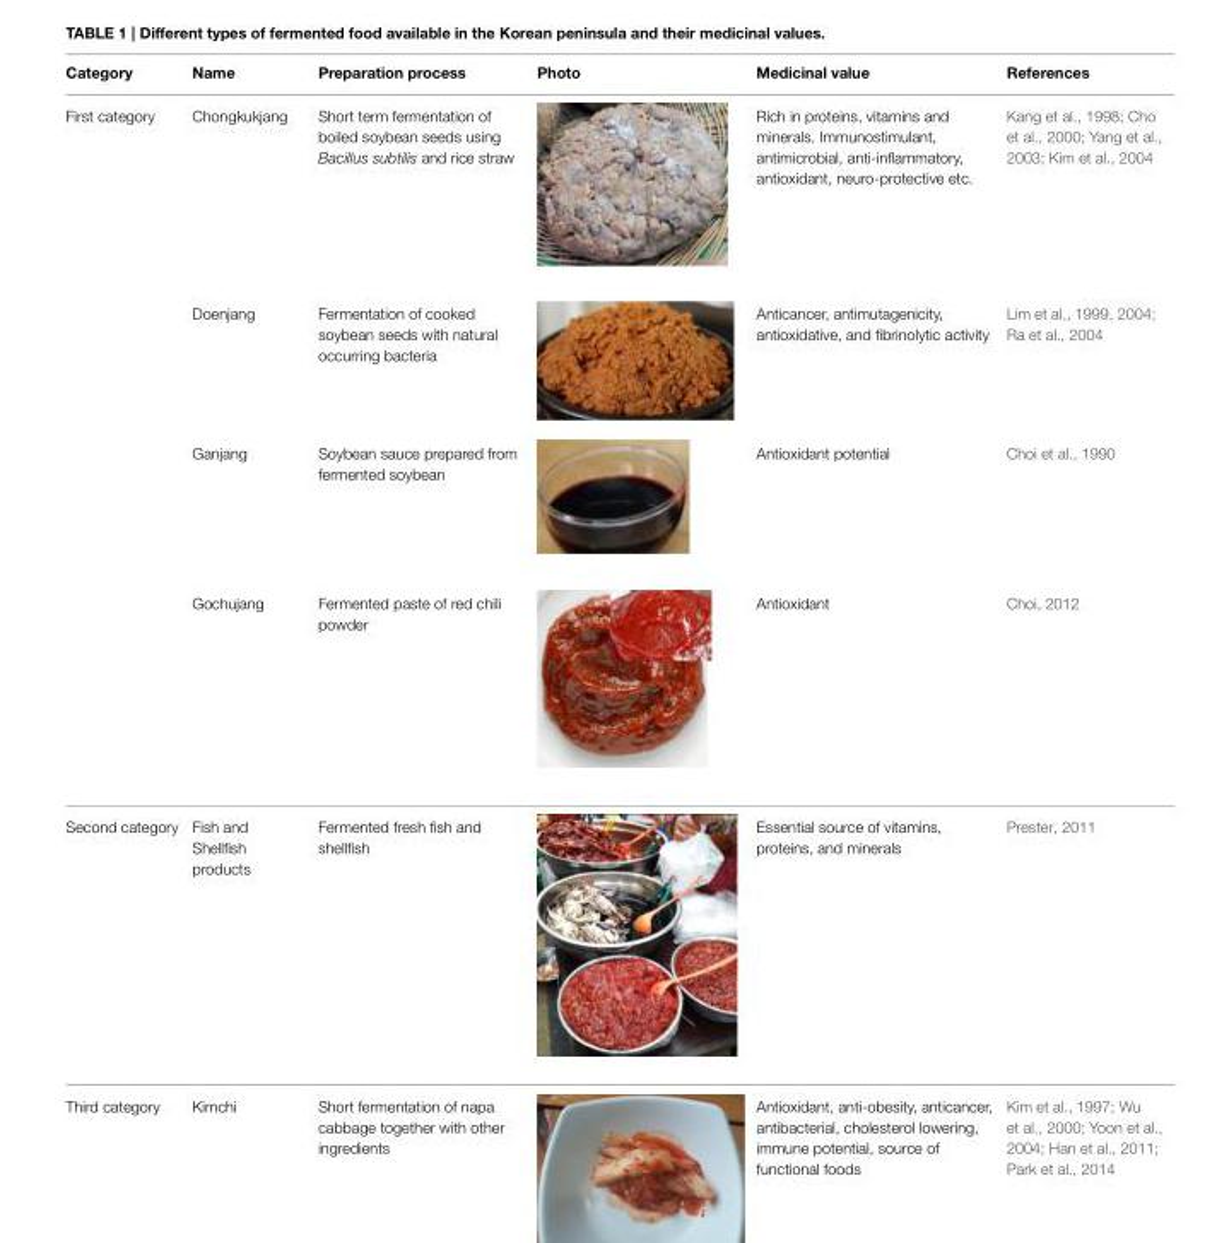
<table><thead><tr><td>Category</td><td>Name</td><td>Preparation process</td><td>Photo</td><td>Medicinal value</td><td>References</td></tr></thead><tbody><tr><td rowspan="4">First category</td><td>Chongkukjang</td><td>Short term fermentation of boiled soybean seeds using Bacillus subtilis and rice straw</td><td></td><td>Rich in proteins, vitamins and minerals. Immunostimulant, antimicrobial, anti-inflammatory, antioxidant, neuro-protective etc.</td><td>Kang et al., 1998; Cho et al., 2000; Yang et al., 2003; Kim et al., 2004</td></tr><tr><td>Doenjang</td><td>Fermentation of cooked soybean seeds with natural occurring bacteria</td><td></td><td>Anticancer, antimutagenicity, antioxidative, and fibrinolytic activity</td><td>Lim et al., 1999, 2004; Ra et al., 2004</td></tr><tr><td>Ganjang</td><td>Soybean sauce prepared from fermented soybean</td><td></td><td>Antioxidant potential</td><td>Choi et al., 1990</td></tr><tr><td>Gochujang</td><td>Fermented paste of red chili powder</td><td></td><td>Antioxidant</td><td>Choi, 2012</td></tr><tr><td>Second category</td><td>Fish and Shellfish products</td><td>Fermented fresh fish and shellfish</td><td></td><td>Essential source of vitamins, proteins, and minerals</td><td>Prester, 2011</td></tr><tr><td>Third category</td><td>Kimchi</td><td>Short fermentation of napa cabbage together with other ingredients</td><td></td><td>Antioxidant, anti-obesity, anticancer, antibacterial, cholesterol lowering, immune potential, source of functional foods</td><td>Kim et al., 1997; Wu et al., 2000; Yoon et al., 2004; Han et al., 2011; Park et al., 2014</td></tr></tbody></table>